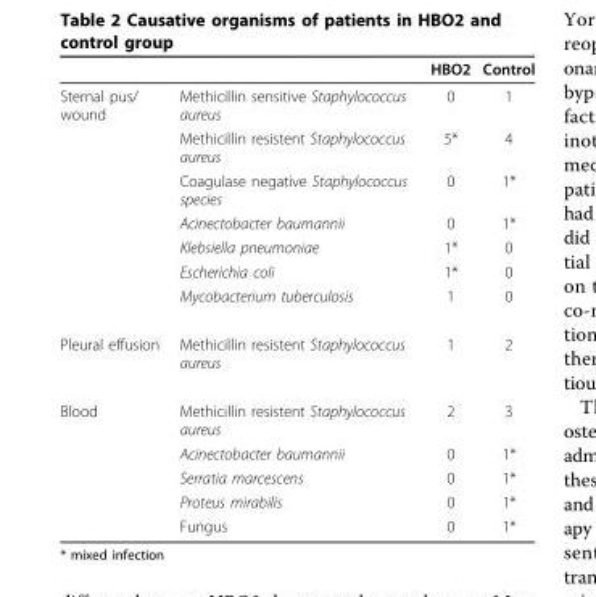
<table><thead><tr><td></td><td></td><td>HBO2</td><td>Control</td></tr></thead><tbody><tr><td rowspan="7">Sternal pus/ wound</td><td>Methicillin sensitive Staphylococcus aureus</td><td>0</td><td>1</td></tr><tr><td>Methicillin resistent Staphylococcus aureus</td><td>5*</td><td>4</td></tr><tr><td>Coagulase negative Staphylococcus species</td><td>0</td><td>1*</td></tr><tr><td>Acinectobacter baumannii</td><td>0</td><td>1*</td></tr><tr><td>Klebsiella pneumoniae</td><td>1*</td><td>0</td></tr><tr><td>Escherichia coli</td><td>1*</td><td>0</td></tr><tr><td>Mycobacterium tuberculosis</td><td>1</td><td>0</td></tr><tr><td>Pleural effusion</td><td>Methicillin resistent Staphylococcus aureus</td><td>1</td><td>2</td></tr><tr><td rowspan="5">Blood</td><td>Methicillin resistent Staphylococcus aureus</td><td>2</td><td>3</td></tr><tr><td>Acinectobacter baumannii</td><td>0</td><td>1*</td></tr><tr><td>Serratia marcescens</td><td>0</td><td>1*</td></tr><tr><td>Proteus mirabilis</td><td>0</td><td>1*</td></tr><tr><td>Fungus</td><td>0</td><td>1*</td></tr></tbody></table>